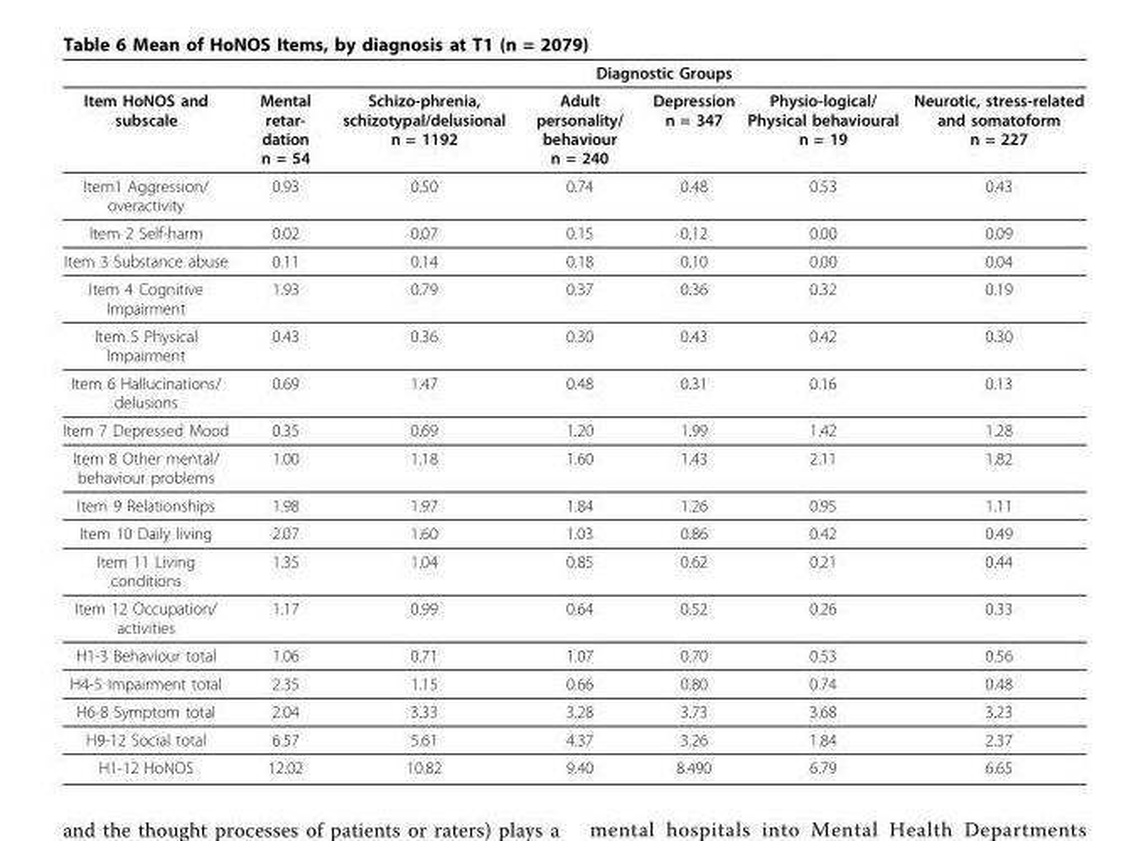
<table><thead><tr><td rowspan="2">Item HoNOS and subscale</td><td colspan="6">Diagnostic Groups</td></tr><tr><td>Mental retar- dation n = 54</td><td>Schizo-phrenia, schizotypal/delusional n = 1192</td><td>Adult personality/ behaviour n = 240</td><td>Depression n = 347</td><td>Physio-logical/ Physical behavioural n = 19</td><td>Neurotic, stress-related and somatoform n = 227</td></tr></thead><tbody><tr><td>Item1 Aggression/ overactivity</td><td>0.93</td><td>0.50</td><td>0.74</td><td>0.48</td><td>0.53</td><td>0.43</td></tr><tr><td>Item 2 Self-harm</td><td>0.02</td><td>0.07</td><td>0.15</td><td>0.12</td><td>0.00</td><td>0.09</td></tr><tr><td>Item 3 Substance abuse</td><td>0.11</td><td>0.14</td><td>0.18</td><td>0.10</td><td>0.00</td><td>0.04</td></tr><tr><td>Item 4 Cognitive Impairment</td><td>1.93</td><td>0.79</td><td>0.37</td><td>0.36</td><td>0.32</td><td>0.19</td></tr><tr><td>Item 5 Physical Impairment</td><td>0.43</td><td>0.36</td><td>0.30</td><td>0.43</td><td>0.42</td><td>0.30</td></tr><tr><td>Item 6 Hallucinations/ delusions</td><td>0.69</td><td>1.47</td><td>0.48</td><td>0.31</td><td>0.16</td><td>0.13</td></tr><tr><td>Item 7 Depressed Mood</td><td>0.35</td><td>0.69</td><td>1.20</td><td>1.99</td><td>1.42</td><td>1.28</td></tr><tr><td>Item 8 Other mental/ behaviour problems</td><td>1.00</td><td>1.18</td><td>1.60</td><td>1.43</td><td>2.11</td><td>1.82</td></tr><tr><td>Item 9 Relationships</td><td>1.98</td><td>1.97</td><td>1.84</td><td>1.26</td><td>0.95</td><td>1.11</td></tr><tr><td>Item 10 Daily living</td><td>2.07</td><td>1.60</td><td>1.03</td><td>0.86</td><td>0.42</td><td>0.49</td></tr><tr><td>Item 11 Living conditions</td><td>1.35</td><td>1.04</td><td>0.85</td><td>0.62</td><td>0.21</td><td>0.44</td></tr><tr><td>Item 12 Occupation/ activities</td><td>1.17</td><td>0.99</td><td>0.64</td><td>0.52</td><td>0.26</td><td>0.33</td></tr><tr><td>H1-3 Behaviour total</td><td>1.06</td><td>0.71</td><td>1.07</td><td>0.70</td><td>0.53</td><td>0.56</td></tr><tr><td>H4-5 Impairment total</td><td>2.35</td><td>1.15</td><td>0.66</td><td>0.80</td><td>0.74</td><td>0.48</td></tr><tr><td>H6-8 Symptom total</td><td>2.04</td><td>3.33</td><td>3.28</td><td>3.73</td><td>3.68</td><td>3.23</td></tr><tr><td>H9-12 Social total</td><td>6.57</td><td>5.61</td><td>4.37</td><td>3.26</td><td>1.84</td><td>2.37</td></tr><tr><td>H1-12 HoNOS</td><td>12.02</td><td>10.82</td><td>9.40</td><td>8.490</td><td>6.79</td><td>6.65</td></tr></tbody></table>